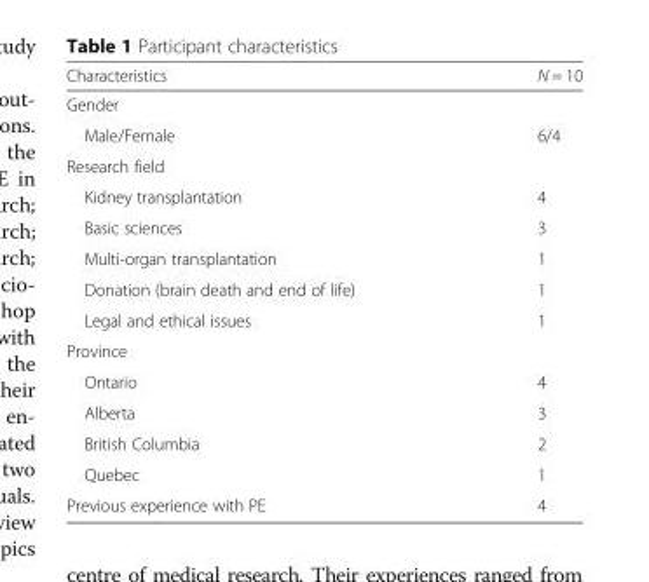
<table><thead><tr><td>Characteristics</td><td>N = 10</td></tr></thead><tbody><tr><td colspan="2">Gender</td></tr><tr><td>Male/Female</td><td>6/4</td></tr><tr><td colspan="2">Research field</td></tr><tr><td>Kidney transplantation</td><td>4</td></tr><tr><td>Basic sciences</td><td>3</td></tr><tr><td>Multi-organ transplantation</td><td>1</td></tr><tr><td>Donation (brain death and end of life)</td><td>1</td></tr><tr><td>Legal and ethical issues</td><td>1</td></tr><tr><td colspan="2">Province</td></tr><tr><td>Ontario</td><td>4</td></tr><tr><td>Alberta</td><td>3</td></tr><tr><td>British Columbia</td><td>2</td></tr><tr><td>Quebec</td><td>1</td></tr><tr><td>Previous experience with PE</td><td>4</td></tr></tbody></table>